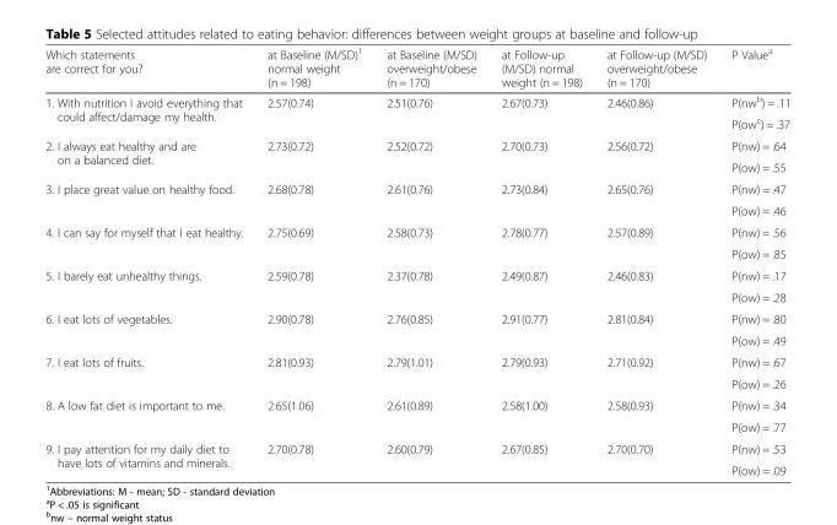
<table><thead><tr><td>Which statements are correct for you?</td><td>at Baseline (M/SD)<sup>1</sup> normal weight (n = 198)</td><td>at Baseline (M/SD) overweight/obese (n = 170)</td><td>at Follow-up (M/SD) normal weight (n = 198)</td><td>at Follow-up (M/SD) overweight/obese (n = 170)</td><td>P Value<sup>a</sup></td></tr></thead><tbody><tr><td rowspan="2">1. With nutrition I avoid everything that could affect/damage my health.</td><td rowspan="2">2.57(0.74)</td><td rowspan="2">2.51(0.76)</td><td rowspan="2">2.67(0.73)</td><td rowspan="2">2.46(0.86)</td><td>P(nw<sup>b</sup>) = .11</td></tr><tr><td>P(ow<sup>c</sup>) = .37</td></tr><tr><td rowspan="2">2. I always eat healthy and are on a balanced diet.</td><td rowspan="2">2.73(0.72)</td><td rowspan="2">2.52(0.72)</td><td rowspan="2">2.70(0.73)</td><td rowspan="2">2.56(0.72)</td><td>P(nw) = .64</td></tr><tr><td>P(ow) = .55</td></tr><tr><td rowspan="2">3. I place great value on healthy food.</td><td rowspan="2">2.68(0.78)</td><td rowspan="2">2.61(0.76)</td><td rowspan="2">2.73(0.84)</td><td rowspan="2">2.65(0.76)</td><td>P(nw) = .47</td></tr><tr><td>P(ow) = .46</td></tr><tr><td rowspan="2">4. I can say for myself that I eat healthy.</td><td rowspan="2">2.75(0.69)</td><td rowspan="2">2.58(0.73)</td><td rowspan="2">2.78(0.77)</td><td rowspan="2">2.57(0.89)</td><td>P(nw) = .56</td></tr><tr><td>P(ow) = .85</td></tr><tr><td rowspan="2">5. I barely eat unhealthy things.</td><td rowspan="2">2.59(0.78)</td><td rowspan="2">2.37(0.78)</td><td rowspan="2">2.49(0.87)</td><td rowspan="2">2.46(0.83)</td><td>P(nw) = .17</td></tr><tr><td>P(ow) = .28</td></tr><tr><td rowspan="2">6. I eat lots of vegetables.</td><td rowspan="2">2.90(0.78)</td><td rowspan="2">2.76(0.85)</td><td rowspan="2">2.91(0.77)</td><td rowspan="2">2.81(0.84)</td><td>P(nw) = .80</td></tr><tr><td>P(ow) = .49</td></tr><tr><td rowspan="2">7. I eat lots of fruits.</td><td rowspan="2">2.81(0.93)</td><td rowspan="2">2.79(1.01)</td><td rowspan="2">2.79(0.93)</td><td rowspan="2">2.71(0.92)</td><td>P(nw) = .67</td></tr><tr><td>P(ow) = .26</td></tr><tr><td rowspan="2">8. A low fat diet is important to me.</td><td rowspan="2">2.65(1.06)</td><td rowspan="2">2.61(0.89)</td><td rowspan="2">2.58(1.00)</td><td rowspan="2">2.58(0.93)</td><td>P(nw) = .34</td></tr><tr><td>P(ow) = .77</td></tr><tr><td rowspan="2">9. I pay attention for my daily diet to have lots of vitamins and minerals.</td><td rowspan="2">2.70(0.78)</td><td rowspan="2">2.60(0.79)</td><td rowspan="2">2.67(0.85)</td><td rowspan="2">2.70(0.70)</td><td>P(nw) = .53</td></tr><tr><td>P(ow) = .09</td></tr></tbody></table>